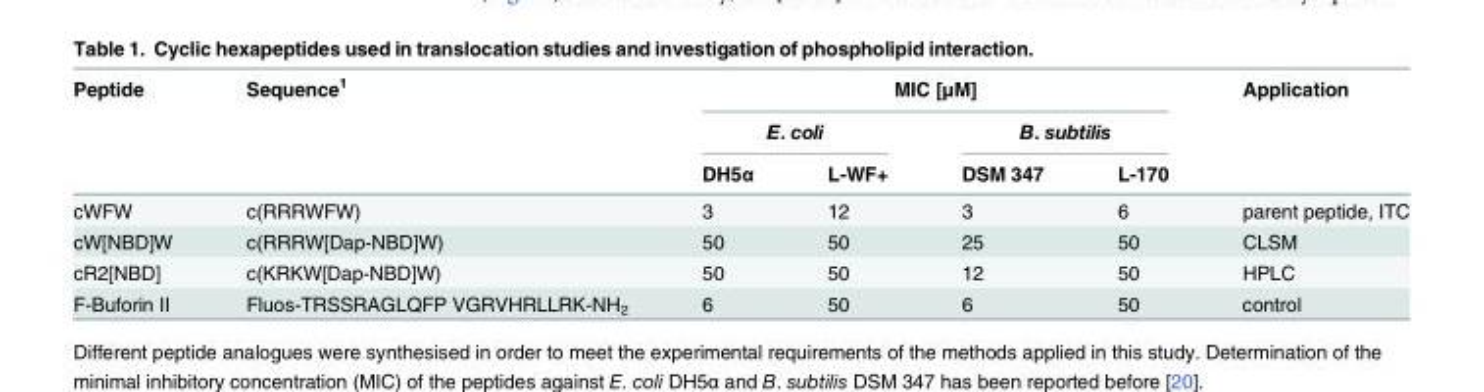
<table><thead><tr><td rowspan="3">Peptide</td><td rowspan="3">Sequence<sup>1</sup></td><td colspan="4">MIC [μM]</td><td rowspan="3">Application</td></tr><tr><td colspan="2">E. coli</td><td colspan="2">B. subtilis</td></tr><tr><td>DH5α</td><td>L-WF+</td><td>DSM 347</td><td>L-170</td></tr></thead><tbody><tr><td>cWFW</td><td>c(RRRWFW)</td><td>3</td><td>12</td><td>3</td><td>6</td><td>parent peptide, ITC</td></tr><tr><td>cW[NBD]W</td><td>c(RRRW[Dap-NBD]W)</td><td>50</td><td>50</td><td>25</td><td>50</td><td>CLSM</td></tr><tr><td>cR2[NBD]</td><td>c(KRKW[Dap-NBD]W)</td><td>50</td><td>50</td><td>12</td><td>50</td><td>HPLC</td></tr><tr><td>F-Buforin II</td><td>Fluos-TRSSRAGLQFP VGRVHRLLRK-NH<sub>2</sub></td><td>6</td><td>50</td><td>6</td><td>50</td><td>control</td></tr></tbody></table>